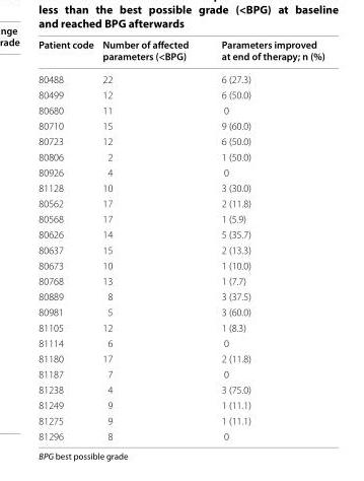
<table><thead><tr><td>Patient code</td><td>Number of affected parameters (&lt;BPG)</td><td>Parameters improved at end of therapy; n (%)</td></tr></thead><tbody><tr><td>80488</td><td>22</td><td>6 (27.3)</td></tr><tr><td>80499</td><td>12</td><td>6 (50.0)</td></tr><tr><td>80680</td><td>11</td><td>0</td></tr><tr><td>80710</td><td>15</td><td>9 (60.0)</td></tr><tr><td>80723</td><td>12</td><td>6 (50.0)</td></tr><tr><td>80806</td><td>2</td><td>1 (50.0)</td></tr><tr><td>80926</td><td>4</td><td>0</td></tr><tr><td>81128</td><td>10</td><td>3 (30.0)</td></tr><tr><td>80562</td><td>17</td><td>2 (11.8)</td></tr><tr><td>80568</td><td>17</td><td>1 (5.9)</td></tr><tr><td>80626</td><td>14</td><td>5 (35.7)</td></tr><tr><td>80637</td><td>15</td><td>2 (13.3)</td></tr><tr><td>80673</td><td>10</td><td>1 (10.0)</td></tr><tr><td>80768</td><td>13</td><td>1 (7.7)</td></tr><tr><td>80889</td><td>8</td><td>3 (37.5)</td></tr><tr><td>80981</td><td>5</td><td>3 (60.0)</td></tr><tr><td>81105</td><td>12</td><td>1 (8.3)</td></tr><tr><td>81114</td><td>6</td><td>0</td></tr><tr><td>81180</td><td>17</td><td>2 (11.8)</td></tr><tr><td>81187</td><td>7</td><td>0</td></tr><tr><td>81238</td><td>4</td><td>3 (75.0)</td></tr><tr><td>81249</td><td>9</td><td>1 (11.1)</td></tr><tr><td>81275</td><td>9</td><td>1 (11.1)</td></tr><tr><td>81296</td><td>8</td><td>0</td></tr></tbody></table>